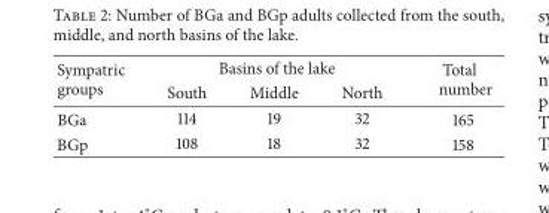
<table><thead><tr><td rowspan="2">Sympatric groups</td><td colspan="3">Basins of the lake</td><td rowspan="2">Total number</td></tr><tr><td>South</td><td>Middle</td><td>North</td></tr></thead><tbody><tr><td>BGa</td><td>114</td><td>19</td><td>32</td><td>165</td></tr><tr><td>BGp</td><td>108</td><td>18</td><td>32</td><td>158</td></tr></tbody></table>